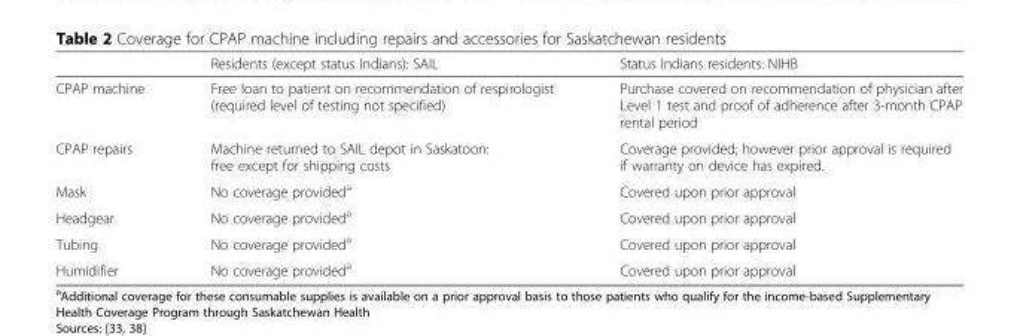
<table><thead><tr><td></td><td>Residents (except status Indians): SAIL</td><td>Status Indians residents: NIHB</td></tr></thead><tbody><tr><td>CPAP machine</td><td>Free loan to patient on recommendation of respirologist (required level of testing not specified)</td><td>Purchase covered on recommendation of physician after Level 1 test and proof of adherence after 3-month CPAP rental period</td></tr><tr><td>CPAP repairs</td><td>Machine returned to SAIL depot in Saskatoon: free except for shipping costs</td><td>Coverage provided; however prior approval is required if warranty on device has expired.</td></tr><tr><td>Mask</td><td>No coverage provided<sup>a</sup></td><td>Covered upon prior approval</td></tr><tr><td>Headgear</td><td>No coverage provided<sup>a</sup></td><td>Covered upon prior approval</td></tr><tr><td>Tubing</td><td>No coverage provided<sup>a</sup></td><td>Covered upon prior approval</td></tr><tr><td>Humidifier</td><td>No coverage provided<sup>a</sup></td><td>Covered upon prior approval</td></tr></tbody></table>